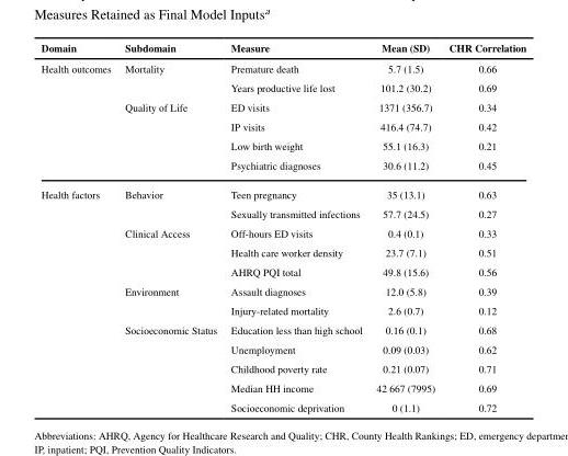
<table><thead><tr><td>Domain</td><td>Subdomain</td><td>Measure</td><td>Mean (SD)</td><td>CHR Correlation</td></tr></thead><tbody><tr><td rowspan="6">Health outcomes</td><td>Mortality</td><td>Premature death</td><td>5.7 (1.5)</td><td>0.66</td></tr><tr><td></td><td>Years productive life lost</td><td>101.2 (30.2)</td><td>0.69</td></tr><tr><td>Quality of Life</td><td>ED visits</td><td>1371 (356.7)</td><td>0.34</td></tr><tr><td></td><td>IP visits</td><td>416.4 (74.7)</td><td>0.42</td></tr><tr><td></td><td>Low birth weight</td><td>55.1 (16.3)</td><td>0.21</td></tr><tr><td></td><td>Psychiatric diagnoses</td><td>30.6 (11.2)</td><td>0.45</td></tr><tr><td rowspan="12">Health factors</td><td>Behavior</td><td>Teen pregnancy</td><td>35 (13.1)</td><td>0.63</td></tr><tr><td></td><td>Sexually transmitted infections</td><td>57.7 (24.5)</td><td>0.27</td></tr><tr><td>Clinical Access</td><td>Off-hours ED visits</td><td>0.4 (0.1)</td><td>0.33</td></tr><tr><td></td><td>Health care worker density</td><td>23.7 (7.1)</td><td>0.51</td></tr><tr><td></td><td>AHRQ PQI total</td><td>49.8 (15.6)</td><td>0.56</td></tr><tr><td>Environment</td><td>Assault diagnoses</td><td>12.0 (5.8)</td><td>0.39</td></tr><tr><td></td><td>Injury-related mortality</td><td>2.6 (0.7)</td><td>0.12</td></tr><tr><td>Socioeconomic Status</td><td>Education less than high school</td><td>0.16 (0.1)</td><td>0.68</td></tr><tr><td></td><td>Unemployment</td><td>0.09 (0.03)</td><td>0.62</td></tr><tr><td></td><td>Childhood poverty rate</td><td>0.21 (0.07)</td><td>0.71</td></tr><tr><td></td><td>Median HH income</td><td>42 667 (7995)</td><td>0.69</td></tr><tr><td></td><td>Socioeconomic deprivation</td><td>0 (1.1)</td><td>0.72</td></tr></tbody></table>